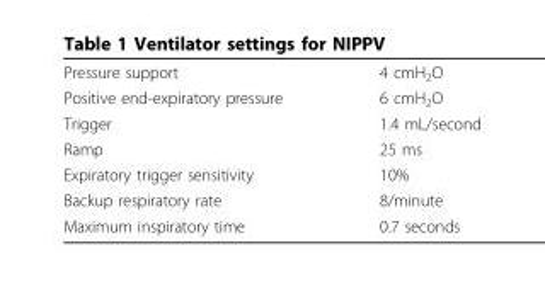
<table><tbody><tr><td>Pressure support</td><td>4 cmH<sub>2</sub>O</td></tr><tr><td>Positive end-expiratory pressure</td><td>6 cmH<sub>2</sub>O</td></tr><tr><td>Trigger</td><td>1.4 mL/second</td></tr><tr><td>Ramp</td><td>25 ms</td></tr><tr><td>Expiratory trigger sensitivity</td><td>10%</td></tr><tr><td>Backup respiratory rate</td><td>8/minute</td></tr><tr><td>Maximum inspiratory time</td><td>0.7 seconds</td></tr></tbody></table>